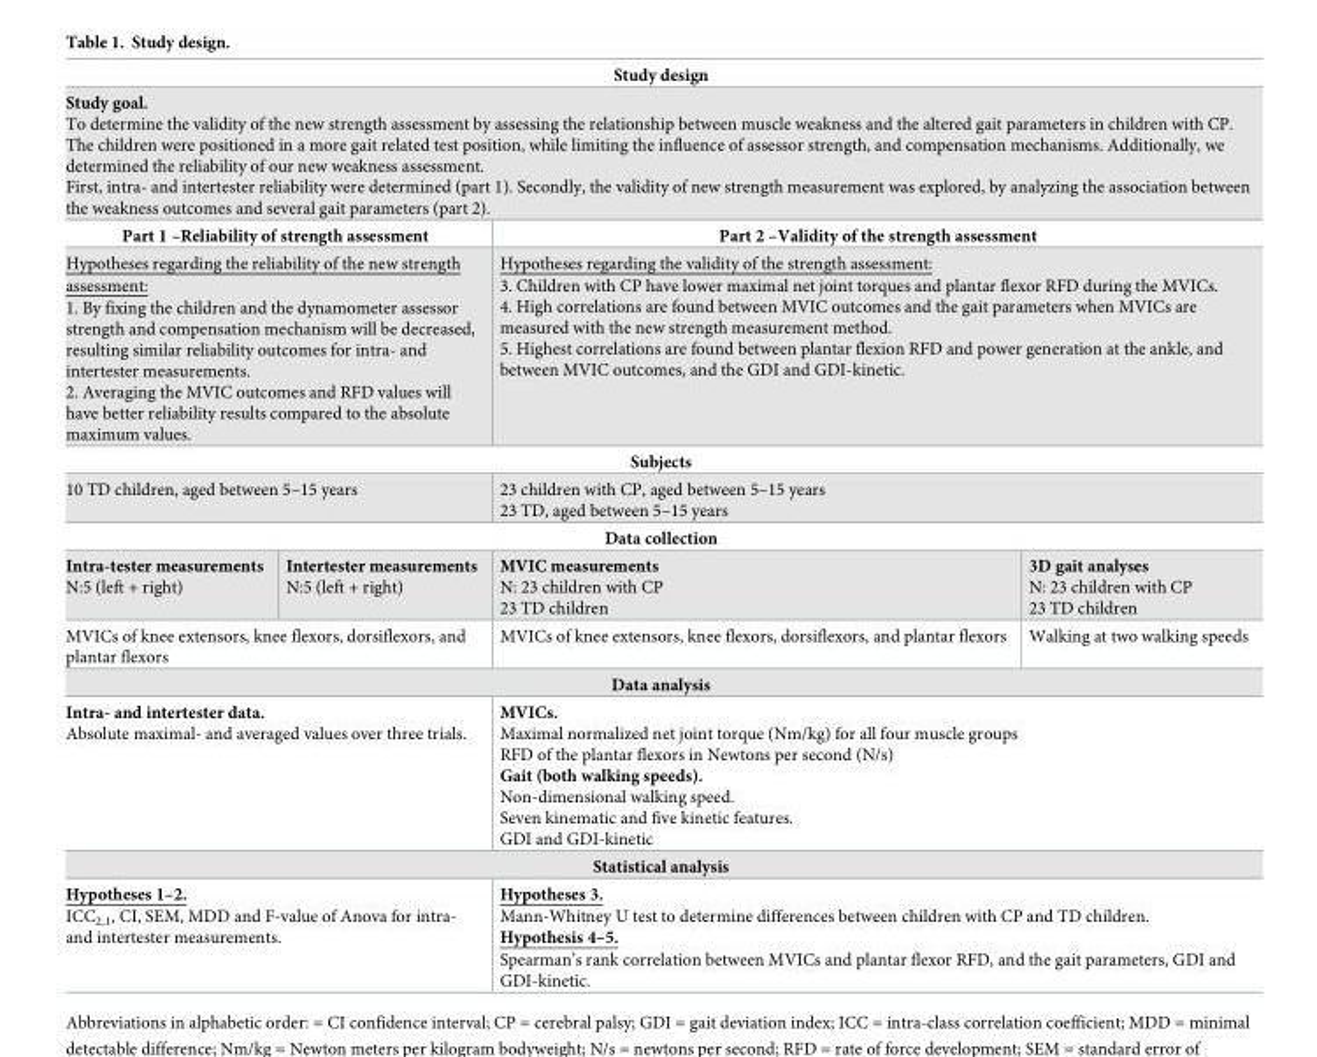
<table><tbody><tr><td colspan="4">Study design</td></tr><tr><td colspan="4">Study goal. To determine the validity of the new strength assessment by assessing the relationship between muscle weakness and the altered gait parameters in children with CP. The children were positioned in a more gait related test position, while limiting the influence of assessor strength, and compensation mechanisms. Additionally, we determined the reliability of our new weakness assessment. First, intra- and intertester reliability were determined (part 1). Secondly, the validity of new strength measurement was explored, by analyzing the association between the weakness outcomes and several gait parameters (part 2).</td></tr><tr><td colspan="2">Part 1 –Reliability of strength assessment</td><td colspan="2">Part 2 –Validity of the strength assessment</td></tr><tr><td colspan="2">Hypotheses regarding the reliability of the new strength assessment: 1. By fixing the children and the dynamometer assessor strength and compensation mechanism will be decreased, resulting similar reliability outcomes for intra- and intertester measurements. 2. Averaging the MVIC outcomes and RFD values will have better reliability results compared to the absolute maximum values.</td><td colspan="2">Hypotheses regarding the validity of the strength assessment: 3. Children with CP have lower maximal net joint torques and plantar flexor RFD during the MVICs. 4. High correlations are found between MVIC outcomes and the gait parameters when MVICs are measured with the new strength measurement method. 5. Highest correlations are found between plantar flexion RFD and power generation at the ankle, and between MVIC outcomes, and the GDI and GDI-kinetic.</td></tr><tr><td colspan="4">Subjects</td></tr><tr><td colspan="2">10 TD children, aged between 5–15 years</td><td colspan="2">23 children with CP, aged between 5–15 years 23 TD, aged between 5–15 years</td></tr><tr><td colspan="4">Data collection</td></tr><tr><td>Intra-tester measurements N:5 (left + right)</td><td>Intertester measurements N:5 (left + right)</td><td>MVIC measurements N: 23 children with CP 23 TD children</td><td>3D gait analyses N: 23 children with CP 23 TD children</td></tr><tr><td colspan="2">MVICs of knee extensors, knee flexors, dorsiflexors, and plantar flexors</td><td>MVICs of knee extensors, knee flexors, dorsiflexors, and plantar flexors</td><td>Walking at two walking speeds</td></tr><tr><td colspan="4">Data analysis</td></tr><tr><td colspan="2">Intra- and intertester data. Absolute maximal- and averaged values over three trials.</td><td colspan="2">MVICs. Maximal normalized net joint torque (Nm/kg) for all four muscle groups RFD of the plantar flexors in Newtons per second (N/s) Gait (both walking speeds). Non-dimensional walking speed. Seven kinematic and five kinetic features. GDI and GDI-kinetic</td></tr><tr><td colspan="4">Statistical analysis</td></tr><tr><td colspan="2">Hypotheses 1–2. ICC<sub>2,1</sub>, CI, SEM, MDD and F-value of Anova for intra- and intertester measurements.</td><td colspan="2">Hypotheses 3. Mann-Whitney U test to determine differences between children with CP and TD children. Hypothesis 4–5. Spearman’s rank correlation between MVICs and plantar flexor RFD, and the gait parameters, GDI and GDI-kinetic.</td></tr></tbody></table>